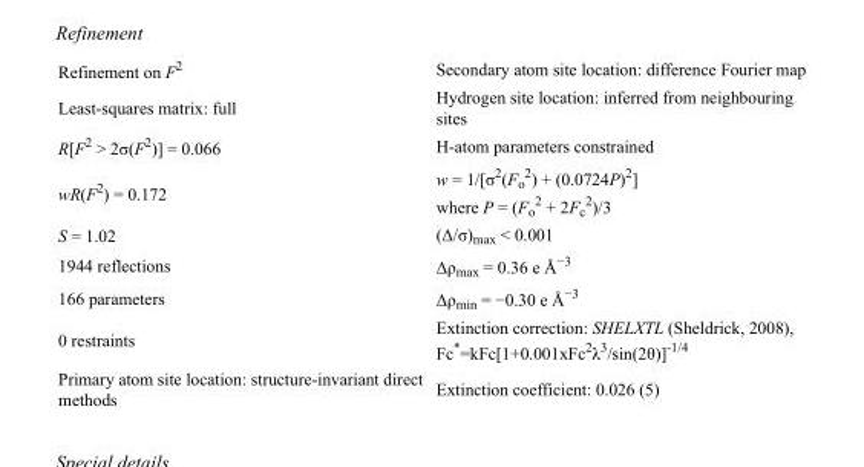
<table><tbody><tr><td>Refinement on F<sup>2</sup></td><td>Secondary atom site location: difference Fourier map</td></tr><tr><td>Least-squares matrix: full</td><td>Hydrogen site location: inferred from neighbouring sites</td></tr><tr><td>R[F<sup>2</sup> &gt; 2σ(F<sup>2</sup>)] = 0.066</td><td>H-atom parameters constrained</td></tr><tr><td>wR(F<sup>2</sup>) = 0.172</td><td>w = 1/[σ<sup>2</sup>(F<sub>o</sub> <sup>2</sup>) + (0.0724P)<sup>2</sup>] where P = (F<sub>o</sub> <sup>2</sup> + 2F<sub>c</sub> <sup>2</sup>)/3</td></tr><tr><td>S = 1.02</td><td>(Δ/σ)<sub>max</sub> &lt; 0.001</td></tr><tr><td>1944 reflections</td><td>Δρ<sub>max</sub> = 0.36 e Å<sup>−3</sup></td></tr><tr><td>166 parameters</td><td>Δρ<sub>min</sub> = −0.30 e Å<sup>−3</sup></td></tr><tr><td>0 restraints</td><td>Extinction correction: SHELXTL (Sheldrick, 2008), Fc*=kFc[1+0.001xFc<sup>2</sup>λ<sup>3</sup>/sin(2θ)]<sup>-1/4</sup></td></tr><tr><td>Primary atom site location: structure-invariant direct methods</td><td>Extinction coefficient: 0.026 (5)</td></tr></tbody></table>